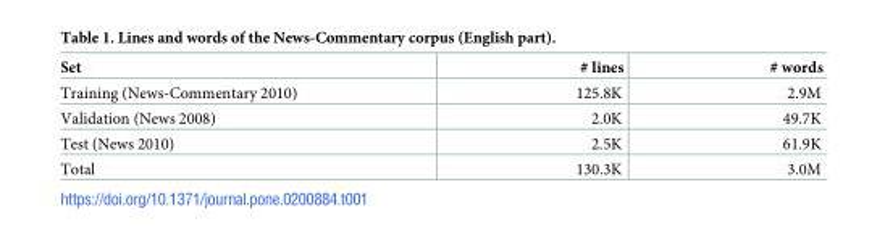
<table><thead><tr><td>Set</td><td># lines</td><td># words</td></tr></thead><tbody><tr><td>Training (News-Commentary 2010)</td><td>125.8K</td><td>2.9M</td></tr><tr><td>Validation (News 2008)</td><td>2.0K</td><td>49.7K</td></tr><tr><td>Test (News 2010)</td><td>2.5K</td><td>61.9K</td></tr><tr><td>Total</td><td>130.3K</td><td>3.0M</td></tr></tbody></table>